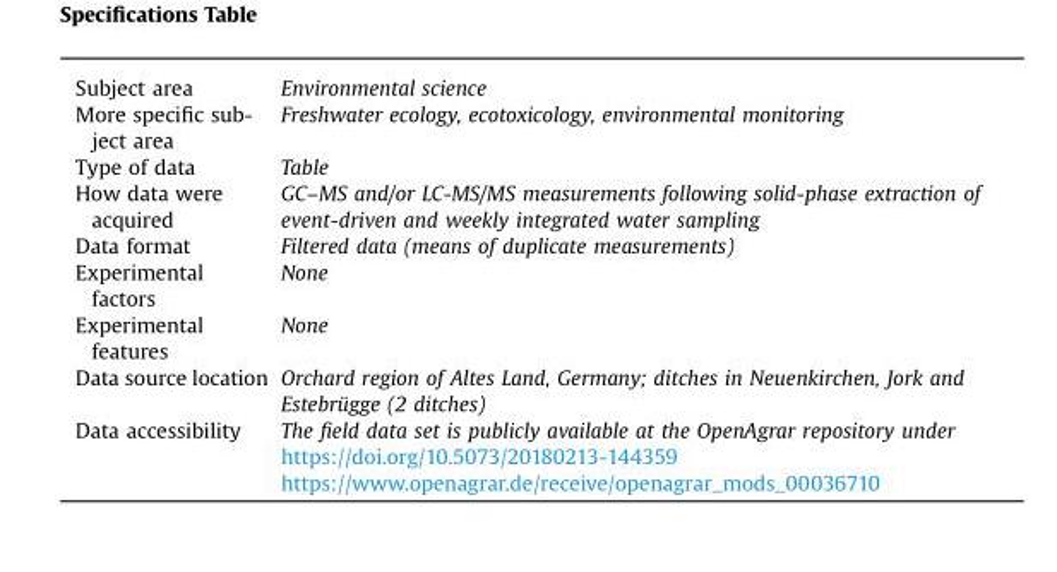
<table><tbody><tr><td>Subject area</td><td>Environmental science</td></tr><tr><td>More specific sub- ject area</td><td>Freshwater ecology, ecotoxicology, environmental monitoring</td></tr><tr><td>Type of data</td><td>Table</td></tr><tr><td>How data were acquired</td><td>GC–MS and/or LC-MS/MS measurements following solid-phase extraction of event-driven and weekly integrated water sampling</td></tr><tr><td>Data format</td><td>Filtered data (means of duplicate measurements)</td></tr><tr><td>Experimental factors</td><td>None</td></tr><tr><td>Experimental features</td><td>None</td></tr><tr><td>Data source location</td><td>Orchard region of Altes Land, Germany; ditches in Neuenkirchen, Jork and Estebrügge (2 ditches)</td></tr><tr><td rowspan="2">Data accessibility</td><td>The field data set is publicly available at the OpenAgrar repository under https://doi.org/10.5073/20180213-144359</td></tr><tr><td>https://www.openagrar.de/receive/openagrar_mods_00036710</td></tr></tbody></table>